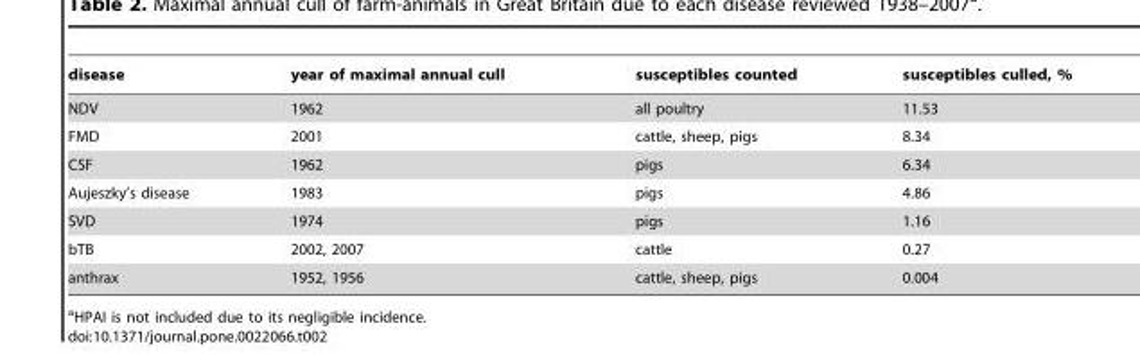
<table><thead><tr><td>disease</td><td>year of maximal annual cull</td><td>susceptibles counted</td><td>susceptibles culled, %</td></tr></thead><tbody><tr><td>NDV</td><td>1962</td><td>all poultry</td><td>11.53</td></tr><tr><td>FMD</td><td>2001</td><td>cattle, sheep, pigs</td><td>8.34</td></tr><tr><td>CSF</td><td>1962</td><td>pigs</td><td>6.34</td></tr><tr><td>Aujeszky’s disease</td><td>1983</td><td>pigs</td><td>4.86</td></tr><tr><td>SVD</td><td>1974</td><td>pigs</td><td>1.16</td></tr><tr><td>bTB</td><td>2002, 2007</td><td>cattle</td><td>0.27</td></tr><tr><td>anthrax</td><td>1952, 1956</td><td>cattle, sheep, pigs</td><td>0.004</td></tr></tbody></table>